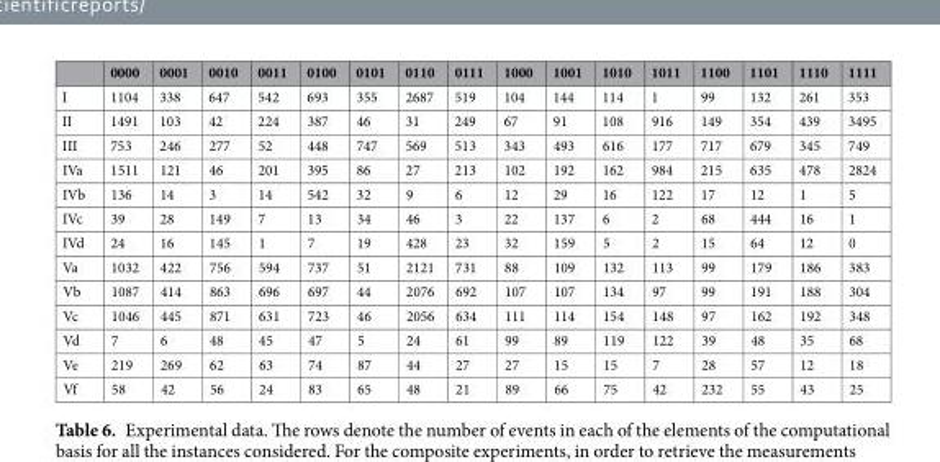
<table><thead><tr><td></td><td>0000</td><td>0001</td><td>0010</td><td>0011</td><td>0100</td><td>0101</td><td>0110</td><td>0111</td><td>1000</td><td>1001</td><td>1010</td><td>1011</td><td>1100</td><td>1101</td><td>1110</td><td>1111</td></tr></thead><tbody><tr><td>I</td><td>1104</td><td>338</td><td>647</td><td>542</td><td>693</td><td>355</td><td>2687</td><td>519</td><td>104</td><td>144</td><td>114</td><td>1</td><td>99</td><td>132</td><td>261</td><td>353</td></tr><tr><td>II</td><td>1491</td><td>103</td><td>42</td><td>224</td><td>387</td><td>46</td><td>31</td><td>249</td><td>67</td><td>91</td><td>108</td><td>916</td><td>149</td><td>354</td><td>439</td><td>3495</td></tr><tr><td>III</td><td>753</td><td>246</td><td>277</td><td>52</td><td>448</td><td>747</td><td>569</td><td>513</td><td>343</td><td>493</td><td>616</td><td>177</td><td>717</td><td>679</td><td>345</td><td>749</td></tr><tr><td>IVa</td><td>1511</td><td>121</td><td>46</td><td>201</td><td>395</td><td>86</td><td>27</td><td>213</td><td>102</td><td>192</td><td>162</td><td>984</td><td>215</td><td>635</td><td>478</td><td>2824</td></tr><tr><td>IVb</td><td>136</td><td>14</td><td>3</td><td>14</td><td>542</td><td>32</td><td>9</td><td>6</td><td>12</td><td>29</td><td>16</td><td>122</td><td>17</td><td>12</td><td>1</td><td>5</td></tr><tr><td>IVc</td><td>39</td><td>28</td><td>149</td><td>7</td><td>13</td><td>34</td><td>46</td><td>3</td><td>22</td><td>137</td><td>6</td><td>2</td><td>68</td><td>444</td><td>16</td><td>1</td></tr><tr><td>IVd</td><td>24</td><td>16</td><td>145</td><td>1</td><td>7</td><td>19</td><td>428</td><td>23</td><td>32</td><td>159</td><td>5</td><td>2</td><td>15</td><td>64</td><td>12</td><td>0</td></tr><tr><td>Va</td><td>1032</td><td>422</td><td>756</td><td>594</td><td>737</td><td>51</td><td>2121</td><td>731</td><td>88</td><td>109</td><td>132</td><td>113</td><td>99</td><td>179</td><td>186</td><td>383</td></tr><tr><td>Vb</td><td>1087</td><td>414</td><td>863</td><td>696</td><td>697</td><td>44</td><td>2076</td><td>692</td><td>107</td><td>107</td><td>134</td><td>97</td><td>99</td><td>191</td><td>188</td><td>304</td></tr><tr><td>Vc</td><td>1046</td><td>445</td><td>871</td><td>631</td><td>723</td><td>46</td><td>2056</td><td>634</td><td>111</td><td>114</td><td>154</td><td>148</td><td>97</td><td>162</td><td>192</td><td>348</td></tr><tr><td>Vd</td><td>7</td><td>6</td><td>48</td><td>45</td><td>47</td><td>5</td><td>24</td><td>61</td><td>99</td><td>89</td><td>119</td><td>122</td><td>39</td><td>48</td><td>35</td><td>68</td></tr><tr><td>Ve</td><td>219</td><td>269</td><td>62</td><td>63</td><td>74</td><td>87</td><td>44</td><td>27</td><td>27</td><td>15</td><td>15</td><td>7</td><td>28</td><td>57</td><td>12</td><td>18</td></tr><tr><td>Vf</td><td>58</td><td>42</td><td>56</td><td>24</td><td>83</td><td>65</td><td>48</td><td>21</td><td>89</td><td>66</td><td>75</td><td>42</td><td>232</td><td>55</td><td>43</td><td>25</td></tr></tbody></table>